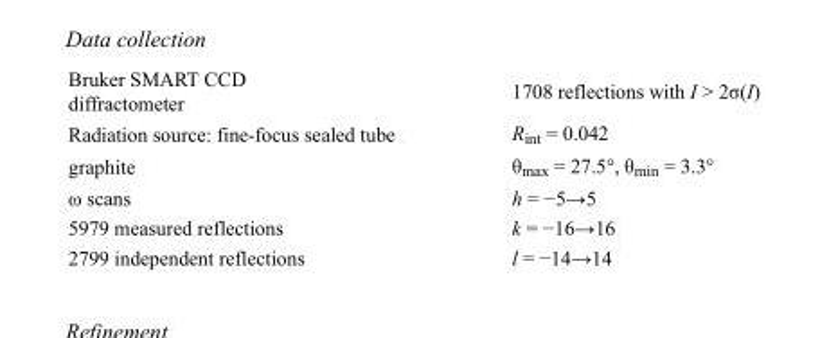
<table><tbody><tr><td>Bruker SMART CCD diffractometer</td><td>1708 reflections with I &gt; 2σ(I)</td></tr><tr><td>Radiation source: fine-focus sealed tube</td><td>R<sub>int</sub> = 0.042</td></tr><tr><td>graphite</td><td>θ<sub>max</sub> = 27.5°, θ<sub>min</sub> = 3.3°</td></tr><tr><td>ω scans</td><td>h = −5→5</td></tr><tr><td>5979 measured reflections</td><td>k = −16→16</td></tr><tr><td>2799 independent reflections</td><td>l = −14→14</td></tr></tbody></table>